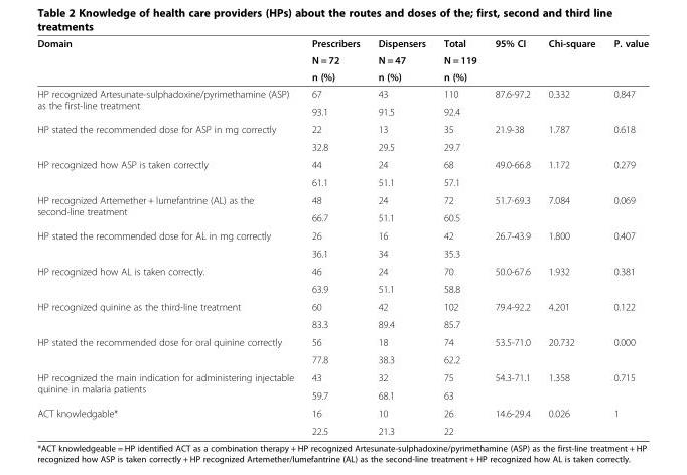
<table><thead><tr><td rowspan="3">Domain</td><td rowspan="3">Prescribers N = 72 n (%)</td><td rowspan="3">Dispensers N = 47 n (%)</td><td rowspan="3">Total N = 119 n (%)</td><td rowspan="3">95% CI</td><td rowspan="3">Chi-square</td><td rowspan="3">P. value</td></tr><tr></tr><tr></tr></thead><tbody><tr><td rowspan="2">HP recognized Artesunate-sulphadoxine/pyrimethamine (ASP) as the first-line treatment</td><td>67</td><td>43</td><td>110</td><td rowspan="2">87.6-97.2</td><td rowspan="2">0.332</td><td rowspan="2">0.847</td></tr><tr><td>93.1</td><td>91.5</td><td>92.4</td></tr><tr><td rowspan="2">HP stated the recommended dose for ASP in mg correctly</td><td>22</td><td>13</td><td>35</td><td rowspan="2">21.9-38</td><td rowspan="2">1.787</td><td rowspan="2">0.618</td></tr><tr><td>32.8</td><td>29.5</td><td>29.7</td></tr><tr><td rowspan="2">HP recognized how ASP is taken correctly</td><td>44</td><td>24</td><td>68</td><td rowspan="2">49.0-66.8</td><td rowspan="2">1.172</td><td rowspan="2">0.279</td></tr><tr><td>61.1</td><td>51.1</td><td>57.1</td></tr><tr><td rowspan="2">HP recognized Artemether + lumefantrine (AL) as the second-line treatment</td><td>48</td><td>24</td><td>72</td><td rowspan="2">51.7-69.3</td><td rowspan="2">7.084</td><td rowspan="2">0.069</td></tr><tr><td>66.7</td><td>51.1</td><td>60.5</td></tr><tr><td rowspan="2">HP stated the recommended dose for AL in mg correctly</td><td>26</td><td>16</td><td>42</td><td rowspan="2">26.7-43.9</td><td rowspan="2">1.800</td><td rowspan="2">0.407</td></tr><tr><td>36.1</td><td>34</td><td>35.3</td></tr><tr><td rowspan="2">HP recognized how AL is taken correctly.</td><td>46</td><td>24</td><td>70</td><td rowspan="2">50.0-67.6</td><td rowspan="2">1.932</td><td rowspan="2">0.381</td></tr><tr><td>63.9</td><td>51.1</td><td>58.8</td></tr><tr><td rowspan="2">HP recognized quinine as the third-line treatment</td><td>60</td><td>42</td><td>102</td><td rowspan="2">79.4-92.2</td><td rowspan="2">4.201</td><td rowspan="2">0.122</td></tr><tr><td>83.3</td><td>89.4</td><td>85.7</td></tr><tr><td rowspan="2">HP stated the recommended dose for oral quinine correctly</td><td>56</td><td>18</td><td>74</td><td rowspan="2">53.5-71.0</td><td rowspan="2">20.732</td><td rowspan="2">0.000</td></tr><tr><td>77.8</td><td>38.3</td><td>62.2</td></tr><tr><td rowspan="2">HP recognized the main indication for administering injectable quinine in malaria patients</td><td>43</td><td>32</td><td>75</td><td rowspan="2">54.3-71.1</td><td rowspan="2">1.358</td><td rowspan="2">0.715</td></tr><tr><td>59.7</td><td>68.1</td><td>63</td></tr><tr><td rowspan="2">ACT knowledgable*</td><td>16</td><td>10</td><td>26</td><td rowspan="2">14.6-29.4</td><td rowspan="2">0.026</td><td rowspan="2">1</td></tr><tr><td>22.5</td><td>21.3</td><td>22</td></tr></tbody></table>